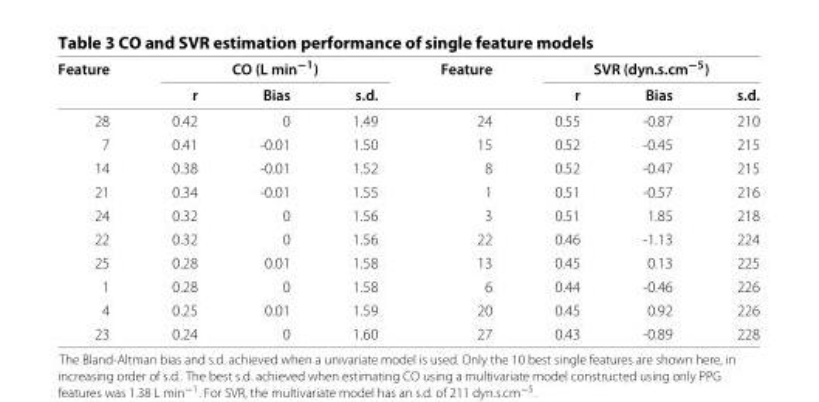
<table><thead><tr><td rowspan="2">Feature</td><td colspan="3">CO (L min−1)</td><td rowspan="2">Feature</td><td colspan="3">SVR (dyn.s.cm<sup>−5</sup>)</td></tr><tr><td>r</td><td>Bias</td><td>s.d.</td><td>r</td><td>Bias</td><td>s.d.</td></tr></thead><tbody><tr><td>28</td><td>0.42</td><td>0</td><td>1.49</td><td>24</td><td>0.55</td><td>-0.87</td><td>210</td></tr><tr><td>7</td><td>0.41</td><td>-0.01</td><td>1.50</td><td>15</td><td>0.52</td><td>-0.45</td><td>215</td></tr><tr><td>14</td><td>0.38</td><td>-0.01</td><td>1.52</td><td>8</td><td>0.52</td><td>-0.47</td><td>215</td></tr><tr><td>21</td><td>0.34</td><td>-0.01</td><td>1.55</td><td>1</td><td>0.51</td><td>-0.57</td><td>216</td></tr><tr><td>24</td><td>0.32</td><td>0</td><td>1.56</td><td>3</td><td>0.51</td><td>1.85</td><td>218</td></tr><tr><td>22</td><td>0.32</td><td>0</td><td>1.56</td><td>22</td><td>0.46</td><td>-1.13</td><td>224</td></tr><tr><td>25</td><td>0.28</td><td>0.01</td><td>1.58</td><td>13</td><td>0.45</td><td>0.13</td><td>225</td></tr><tr><td>1</td><td>0.28</td><td>0</td><td>1.58</td><td>6</td><td>0.44</td><td>-0.46</td><td>226</td></tr><tr><td>4</td><td>0.25</td><td>0.01</td><td>1.59</td><td>20</td><td>0.45</td><td>0.92</td><td>226</td></tr><tr><td>23</td><td>0.24</td><td>0</td><td>1.60</td><td>27</td><td>0.43</td><td>-0.89</td><td>228</td></tr></tbody></table>